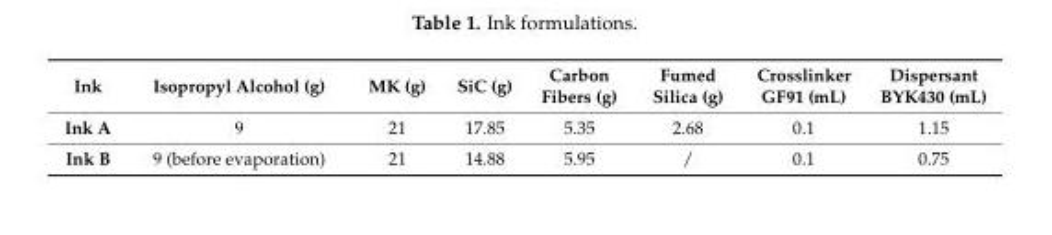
<table><thead><tr><td>Ink</td><td>Isopropyl Alcohol (g)</td><td>MK (g)</td><td>SiC (g)</td><td>Carbon Fibers (g)</td><td>Fumed Silica (g)</td><td>Crosslinker GF91 (mL)</td><td>Dispersant BYK430 (mL)</td></tr></thead><tbody><tr><td>Ink A</td><td>9</td><td>21</td><td>17.85</td><td>5.35</td><td>2.68</td><td>0.1</td><td>1.15</td></tr><tr><td>Ink B</td><td>9 (before evaporation)</td><td>21</td><td>14.88</td><td>5.95</td><td>/</td><td>0.1</td><td>0.75</td></tr></tbody></table>